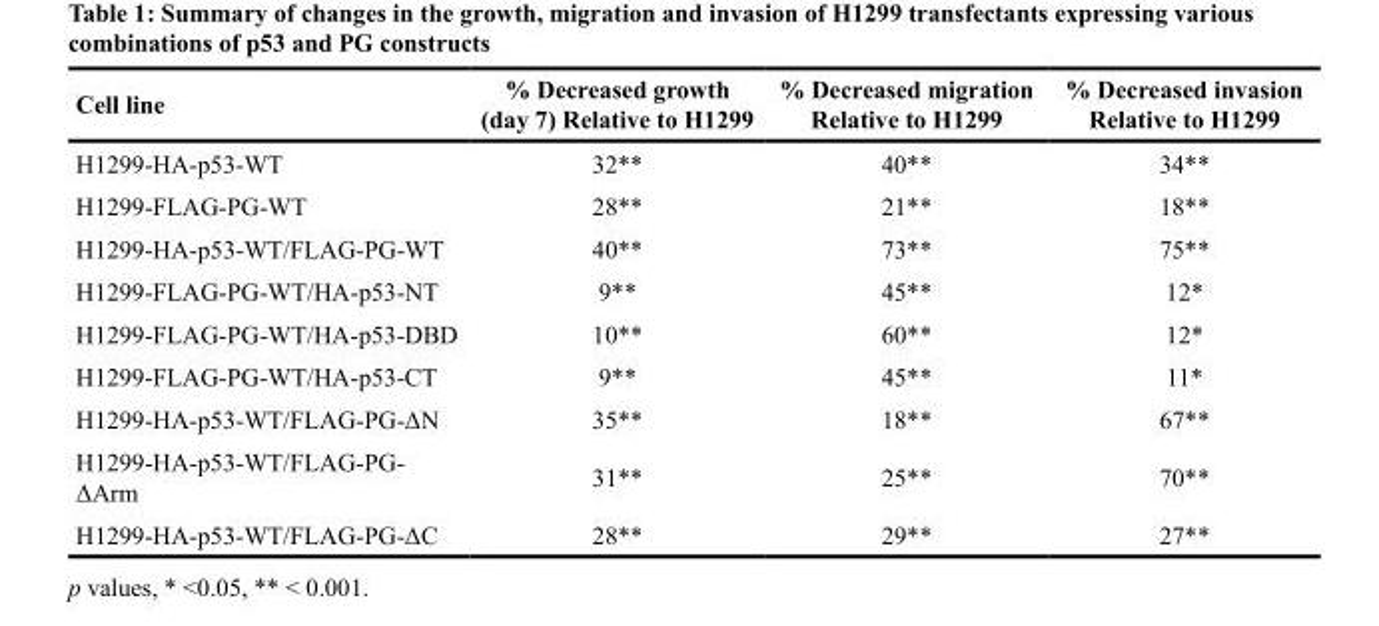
<table><thead><tr><td>Cell line</td><td>% Decreased growth (day 7) Relative to H1299</td><td>% Decreased migration Relative to H1299</td><td>% Decreased invasion Relative to H1299</td></tr></thead><tbody><tr><td>H1299-HA-p53-WT</td><td>32**</td><td>40**</td><td>34**</td></tr><tr><td>H1299-FLAG-PG-WT</td><td>28**</td><td>21**</td><td>18**</td></tr><tr><td>H1299-HA-p53-WT/FLAG-PG-WT</td><td>40**</td><td>73**</td><td>75**</td></tr><tr><td>H1299-FLAG-PG-WT/HA-p53-NT</td><td>9**</td><td>45**</td><td>12*</td></tr><tr><td>H1299-FLAG-PG-WT/HA-p53-DBD</td><td>10**</td><td>60**</td><td>12*</td></tr><tr><td>H1299-FLAG-PG-WT/HA-p53-CT</td><td>9**</td><td>45**</td><td>11*</td></tr><tr><td>H1299-HA-p53-WT/FLAG-PG-ΔN</td><td>35**</td><td>18**</td><td>67**</td></tr><tr><td>H1299-HA-p53-WT/FLAG-PG- ΔArm</td><td>31**</td><td>25**</td><td>70**</td></tr><tr><td>H1299-HA-p53-WT/FLAG-PG-ΔC</td><td>28**</td><td>29**</td><td>27**</td></tr></tbody></table>